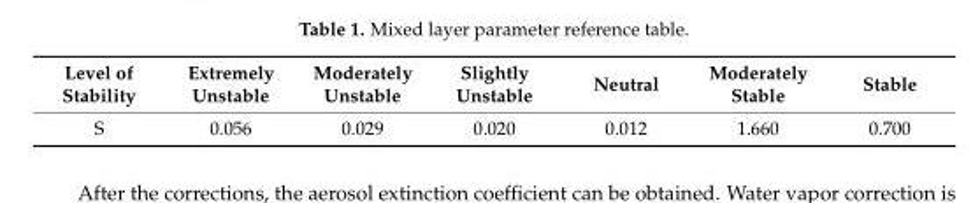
<table><thead><tr><td>Level of Stability</td><td>Extremely Unstable</td><td>Moderately Unstable</td><td>Slightly Unstable</td><td>Neutral</td><td>Moderately Stable</td><td>Stable</td></tr></thead><tbody><tr><td>S</td><td>0.056</td><td>0.029</td><td>0.020</td><td>0.012</td><td>1.660</td><td>0.700</td></tr></tbody></table>